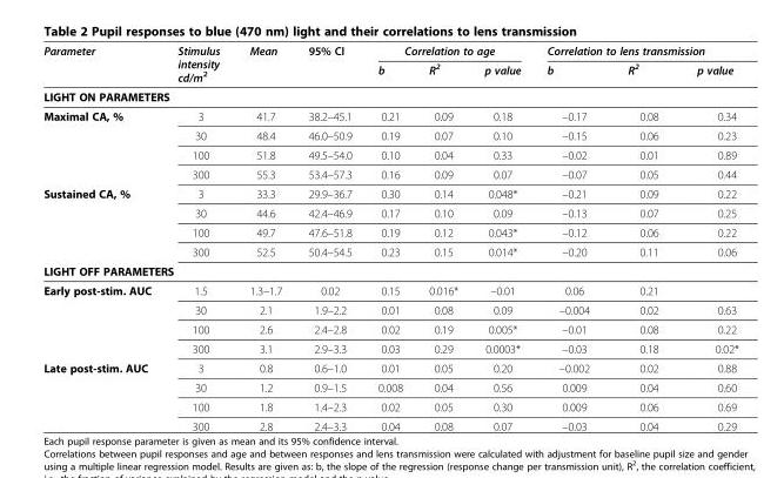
<table><thead><tr><td rowspan="2">Parameter</td><td rowspan="2">Stimulus intensity cd/m<sup>2</sup></td><td rowspan="2">Mean</td><td rowspan="2">95% CI</td><td colspan="3">Correlation to age</td><td colspan="3">Correlation to lens transmission</td></tr><tr><td>b</td><td>R<sup>2</sup></td><td>p value</td><td>b</td><td>R<sup>2</sup></td><td>p value</td></tr></thead><tbody><tr><td colspan="10">LIGHT ON PARAMETERS</td></tr><tr><td rowspan="4">Maximal CA, %</td><td>3</td><td>41.7</td><td>38.2–45.1</td><td>0.21</td><td>0.09</td><td>0.18</td><td>–0.17</td><td>0.08</td><td>0.34</td></tr><tr><td>30</td><td>48.4</td><td>46.0–50.9</td><td>0.19</td><td>0.07</td><td>0.10</td><td>–0.15</td><td>0.06</td><td>0.23</td></tr><tr><td>100</td><td>51.8</td><td>49.5–54.0</td><td>0.10</td><td>0.04</td><td>0.33</td><td>–0.02</td><td>0.01</td><td>0.89</td></tr><tr><td>300</td><td>55.3</td><td>53.4–57.3</td><td>0.16</td><td>0.09</td><td>0.07</td><td>–0.07</td><td>0.05</td><td>0.44</td></tr><tr><td rowspan="4">Sustained CA, %</td><td>3</td><td>33.3</td><td>29.9–36.7</td><td>0.30</td><td>0.14</td><td>0.048*</td><td>–0.21</td><td>0.09</td><td>0.22</td></tr><tr><td>30</td><td>44.6</td><td>42.4–46.9</td><td>0.17</td><td>0.10</td><td>0.09</td><td>–0.13</td><td>0.07</td><td>0.25</td></tr><tr><td>100</td><td>49.7</td><td>47.6–51.8</td><td>0.19</td><td>0.12</td><td>0.043*</td><td>–0.12</td><td>0.06</td><td>0.22</td></tr><tr><td>300</td><td>52.5</td><td>50.4–54.5</td><td>0.23</td><td>0.15</td><td>0.014*</td><td>–0.20</td><td>0.11</td><td>0.06</td></tr><tr><td colspan="10">LIGHT OFF PARAMETERS</td></tr><tr><td rowspan="4">Early post-stim. AUC</td><td>1.5</td><td>1.3–1.7</td><td>0.02</td><td>0.15</td><td>0.016*</td><td>–0.01</td><td>0.06</td><td>0.21</td><td></td></tr><tr><td>30</td><td>2.1</td><td>1.9–2.2</td><td>0.01</td><td>0.08</td><td>0.09</td><td>–0.004</td><td>0.02</td><td>0.63</td></tr><tr><td>100</td><td>2.6</td><td>2.4–2.8</td><td>0.02</td><td>0.19</td><td>0.005*</td><td>–0.01</td><td>0.08</td><td>0.22</td></tr><tr><td>300</td><td>3.1</td><td>2.9–3.3</td><td>0.03</td><td>0.29</td><td>0.0003*</td><td>–0.03</td><td>0.18</td><td>0.02*</td></tr><tr><td rowspan="4">Late post-stim. AUC</td><td>3</td><td>0.8</td><td>0.6–1.0</td><td>0.01</td><td>0.05</td><td>0.20</td><td>–0.002</td><td>0.02</td><td>0.88</td></tr><tr><td>30</td><td>1.2</td><td>0.9–1.5</td><td>0.008</td><td>0.04</td><td>0.56</td><td>0.009</td><td>0.04</td><td>0.60</td></tr><tr><td>100</td><td>1.8</td><td>1.4–2.3</td><td>0.02</td><td>0.05</td><td>0.30</td><td>0.009</td><td>0.06</td><td>0.69</td></tr><tr><td>300</td><td>2.8</td><td>2.4–3.3</td><td>0.04</td><td>0.08</td><td>0.07</td><td>–0.03</td><td>0.04</td><td>0.29</td></tr></tbody></table>